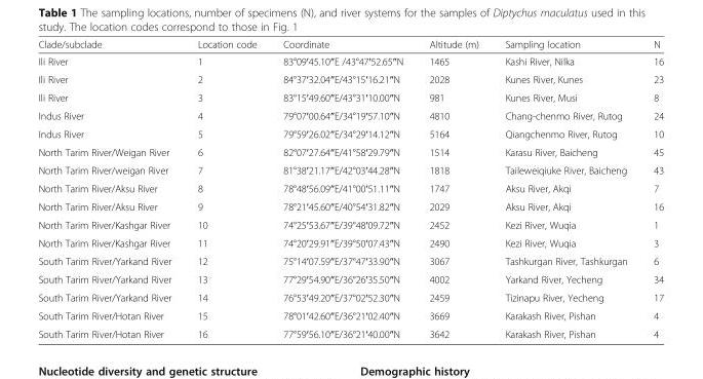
<table><thead><tr><td>Clade/subclade</td><td>Location code</td><td>Coordinate</td><td>Altitude (m)</td><td>Sampling location</td><td>N</td></tr></thead><tbody><tr><td>Ili River</td><td>1</td><td>83°09′45.10″E /43°47′52.65″N</td><td>1465</td><td>Kashi River, Nilka</td><td>16</td></tr><tr><td>Ili River</td><td>2</td><td>84°37′32.04″E/43°15′16.21″N</td><td>2028</td><td>Kunes River, Kunes</td><td>23</td></tr><tr><td>Ili River</td><td>3</td><td>83°15′49.60″E/43°31′10.00″N</td><td>981</td><td>Kunes River, Musi</td><td>8</td></tr><tr><td>Indus River</td><td>4</td><td>79°07′00.64″E/34°19′57.10″N</td><td>4810</td><td>Chang-chenmo River, Rutog</td><td>24</td></tr><tr><td>Indus River</td><td>5</td><td>79°59′26.02″E/34°29′14.12″N</td><td>5164</td><td>Qiangchenmo River, Rutog</td><td>10</td></tr><tr><td>North Tarim River/Weigan River</td><td>6</td><td>82°07′27.64″E/41°58′29.79″N</td><td>1514</td><td>Karasu River, Baicheng</td><td>45</td></tr><tr><td>North Tarim River/weigan River</td><td>7</td><td>81°38′21.17″E/42°03′44.28″N</td><td>1818</td><td>Taileweiqiuke River, Baicheng</td><td>43</td></tr><tr><td>North Tarim River/Aksu River</td><td>8</td><td>78°48′56.09″E/41°00′51.11″N</td><td>1747</td><td>Aksu River, Akqi</td><td>7</td></tr><tr><td>North Tarim River/Aksu River</td><td>9</td><td>78°21′45.60″E/40°54′31.82″N</td><td>2029</td><td>Aksu River, Akqi</td><td>16</td></tr><tr><td>North Tarim River/Kashgar River</td><td>10</td><td>74°25′53.67″E/39°48′09.72″N</td><td>2452</td><td>Kezi River, Wuqia</td><td>1</td></tr><tr><td>North Tarim River/Kashgar River</td><td>11</td><td>74°20′29.91″E/39°50′07.43″N</td><td>2490</td><td>Kezi River, Wuqia</td><td>3</td></tr><tr><td>South Tarim River/Yarkand River</td><td>12</td><td>75°14′07.59″E/37°47′33.90″N</td><td>3067</td><td>Tashkurgan River, Tashkurgan</td><td>6</td></tr><tr><td>South Tarim River/Yarkand River</td><td>13</td><td>77°29′54.90″E/36°26′35.50″N</td><td>4002</td><td>Yarkand River, Yecheng</td><td>34</td></tr><tr><td>South Tarim River/Yarkand River</td><td>14</td><td>76°53′49.20″E/37°02′52.30″N</td><td>2459</td><td>Tizinapu River, Yecheng</td><td>17</td></tr><tr><td>South Tarim River/Hotan River</td><td>15</td><td>78°01′42.60″E/36°21′02.40″N</td><td>3669</td><td>Karakash River, Pishan</td><td>4</td></tr><tr><td>South Tarim River/Hotan River</td><td>16</td><td>77°59′56.10″E/36°21′40.00″N</td><td>3642</td><td>Karakash River, Pishan</td><td>4</td></tr></tbody></table>